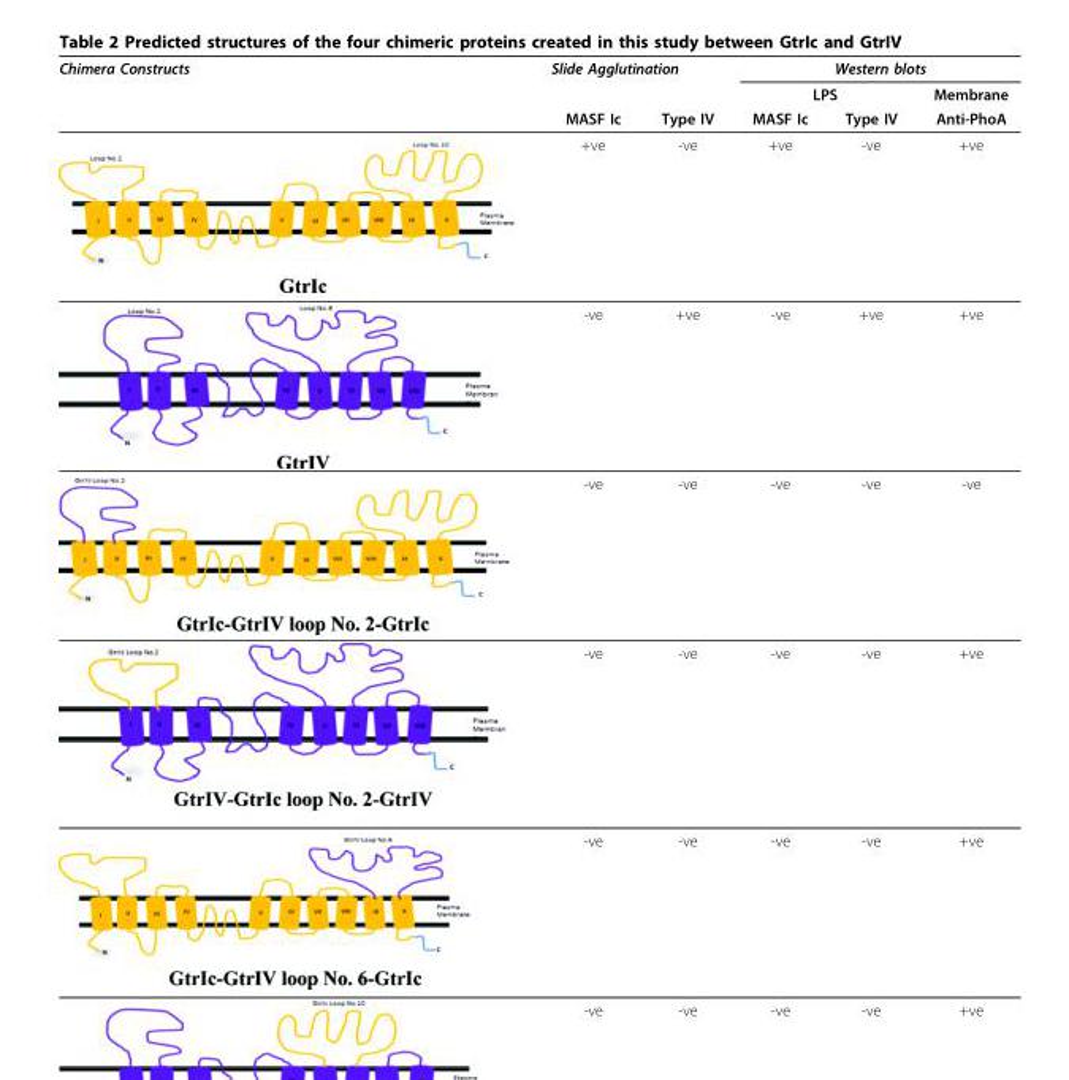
<table><thead><tr><td rowspan="3">Chimera Constructs</td><td colspan="2">Slide Agglutination</td><td colspan="3">Western blots</td></tr><tr><td rowspan="2">MASF Ic</td><td rowspan="2">Type IV</td><td colspan="2">LPS</td><td rowspan="2">Membrane Anti-PhoA</td></tr><tr><td>MASF Ic</td><td>Type IV</td></tr></thead><tbody><tr><td></td><td>+ve</td><td>-ve</td><td>+ve</td><td>-ve</td><td>+ve</td></tr><tr><td></td><td>-ve</td><td>+ve</td><td>-ve</td><td>+ve</td><td>+ve</td></tr><tr><td></td><td>-ve</td><td>-ve</td><td>-ve</td><td>-ve</td><td>-ve</td></tr><tr><td></td><td>-ve</td><td>-ve</td><td>-ve</td><td>-ve</td><td>+ve</td></tr><tr><td></td><td>-ve</td><td>-ve</td><td>-ve</td><td>-ve</td><td>+ve</td></tr><tr><td></td><td>-ve</td><td>-ve</td><td>-ve</td><td>-ve</td><td>+ve</td></tr></tbody></table>